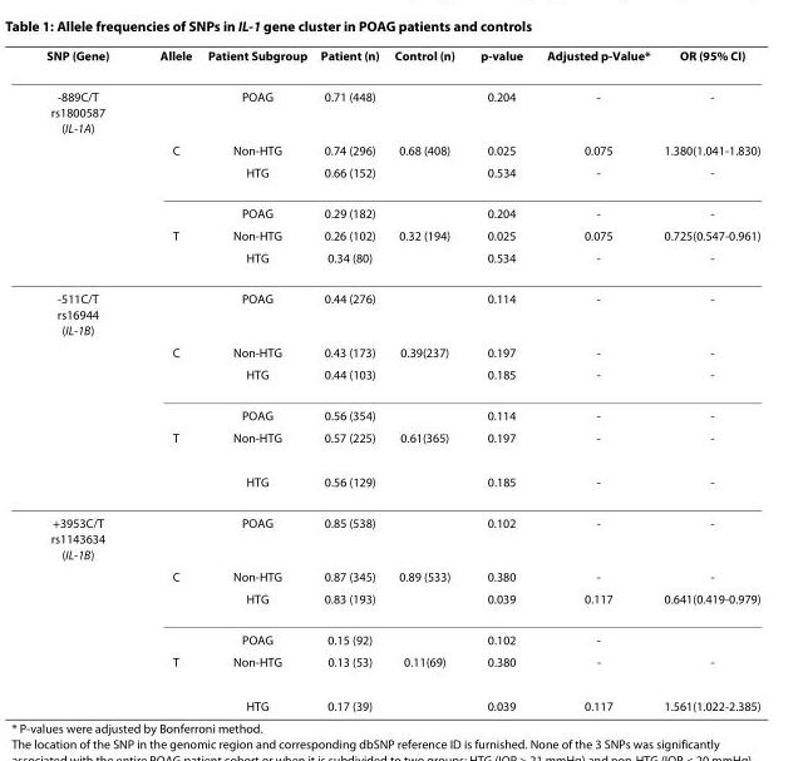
<table><thead><tr><td>SNP (Gene)</td><td>Allele</td><td>Patient Subgroup</td><td>Patient (n)</td><td>Control (n)</td><td>p-value</td><td>Adjusted p-Value*</td><td>OR (95% CI)</td></tr></thead><tbody><tr><td rowspan="6">-889C/T rs1800587 (IL-1A)</td><td></td><td>POAG</td><td>0.71 (448)</td><td></td><td>0.204</td><td>-</td><td>-</td></tr><tr><td>C</td><td>Non-HTG</td><td>0.74 (296)</td><td>0.68 (408)</td><td>0.025</td><td>0.075</td><td>1.380(1.041-1.830)</td></tr><tr><td></td><td>HTG</td><td>0.66 (152)</td><td></td><td>0.534</td><td>-</td><td>-</td></tr><tr><td></td><td>POAG</td><td>0.29 (182)</td><td></td><td>0.204</td><td>-</td><td>-</td></tr><tr><td>T</td><td>Non-HTG</td><td>0.26 (102)</td><td>0.32 (194)</td><td>0.025</td><td>0.075</td><td>0.725(0.547-0.961)</td></tr><tr><td></td><td>HTG</td><td>0.34 (80)</td><td></td><td>0.534</td><td>-</td><td>-</td></tr><tr><td rowspan="6">-511C/T rs16944 (IL-1B)</td><td></td><td>POAG</td><td>0.44 (276)</td><td></td><td>0.114</td><td>-</td><td>-</td></tr><tr><td>C</td><td>Non-HTG</td><td>0.43 (173)</td><td>0.39(237)</td><td>0.197</td><td>-</td><td>-</td></tr><tr><td></td><td>HTG</td><td>0.44 (103)</td><td></td><td>0.185</td><td>-</td><td>-</td></tr><tr><td></td><td>POAG</td><td>0.56 (354)</td><td></td><td>0.114</td><td>-</td><td>-</td></tr><tr><td>T</td><td>Non-HTG</td><td>0.57 (225)</td><td>0.61(365)</td><td>0.197</td><td>-</td><td>-</td></tr><tr><td></td><td>HTG</td><td>0.56 (129)</td><td></td><td>0.185</td><td>-</td><td>-</td></tr><tr><td rowspan="6">+3953C/T rs1143634 (IL-1B)</td><td></td><td>POAG</td><td>0.85 (538)</td><td></td><td>0.102</td><td>-</td><td>-</td></tr><tr><td>C</td><td>Non-HTG</td><td>0.87 (345)</td><td>0.89 (533)</td><td>0.380</td><td>-</td><td>-</td></tr><tr><td></td><td>HTG</td><td>0.83 (193)</td><td></td><td>0.039</td><td>0.117</td><td>0.641(0.419-0.979)</td></tr><tr><td></td><td>POAG</td><td>0.15 (92)</td><td></td><td>0.102</td><td>-</td><td></td></tr><tr><td>T</td><td>Non-HTG</td><td>0.13 (53)</td><td>0.11(69)</td><td>0.380</td><td>-</td><td>-</td></tr><tr><td></td><td>HTG</td><td>0.17 (39)</td><td></td><td>0.039</td><td>0.117</td><td>1.561(1.022-2.385)</td></tr></tbody></table>